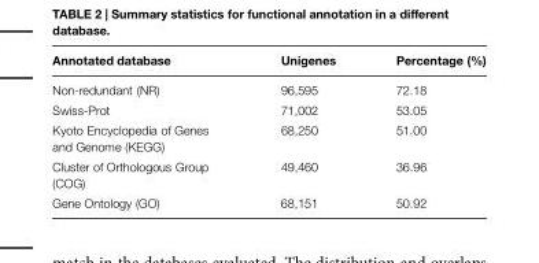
<table><thead><tr><td>Annotated database</td><td>Unigenes</td><td>Percentage (%)</td></tr></thead><tbody><tr><td>Non-redundant (NR)</td><td>96,595</td><td>72.18</td></tr><tr><td>Swiss-Prot</td><td>71,002</td><td>53.05</td></tr><tr><td>Kyoto Encyclopedia of Genes and Genome (KEGG)</td><td>68,250</td><td>51.00</td></tr><tr><td>Cluster of Orthologous Group (COG)</td><td>49,460</td><td>36.96</td></tr><tr><td>Gene Ontology (GO)</td><td>68,151</td><td>50.92</td></tr></tbody></table>